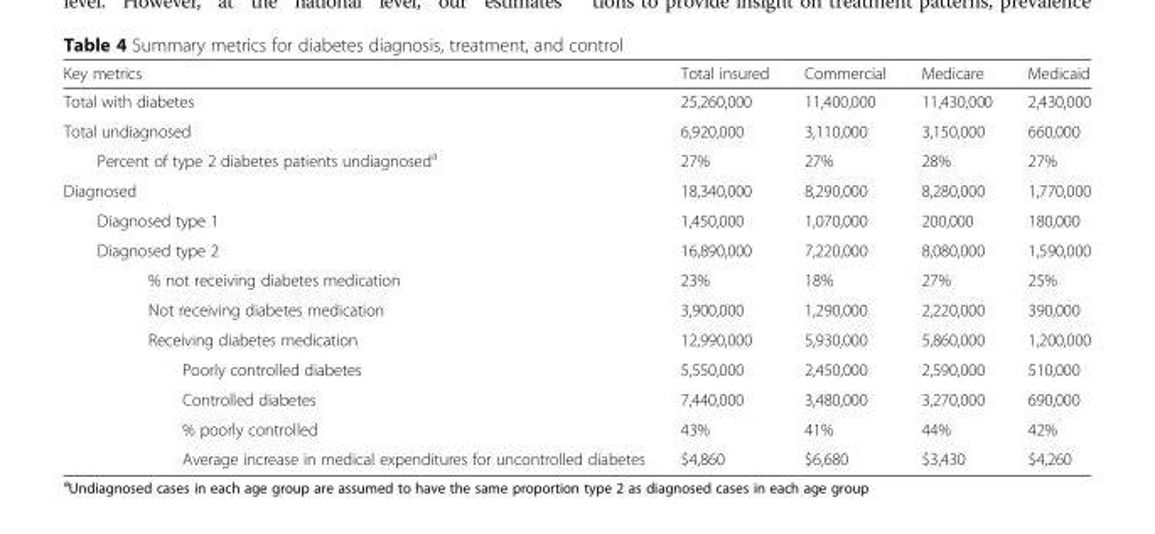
<table><thead><tr><td>Key metrics</td><td>Total insured</td><td>Commercial</td><td>Medicare</td><td>Medicaid</td></tr></thead><tbody><tr><td>Total with diabetes</td><td>25,260,000</td><td>11,400,000</td><td>11,430,000</td><td>2,430,000</td></tr><tr><td>Total undiagnosed</td><td>6,920,000</td><td>3,110,000</td><td>3,150,000</td><td>660,000</td></tr><tr><td>Percent of type 2 diabetes patients undiagnosed<sup>a</sup></td><td>27%</td><td>27%</td><td>28%</td><td>27%</td></tr><tr><td>Diagnosed</td><td>18,340,000</td><td>8,290,000</td><td>8,280,000</td><td>1,770,000</td></tr><tr><td>Diagnosed type 1</td><td>1,450,000</td><td>1,070,000</td><td>200,000</td><td>180,000</td></tr><tr><td>Diagnosed type 2</td><td>16,890,000</td><td>7,220,000</td><td>8,080,000</td><td>1,590,000</td></tr><tr><td>% not receiving diabetes medication</td><td>23%</td><td>18%</td><td>27%</td><td>25%</td></tr><tr><td>Not receiving diabetes medication</td><td>3,900,000</td><td>1,290,000</td><td>2,220,000</td><td>390,000</td></tr><tr><td>Receiving diabetes medication</td><td>12,990,000</td><td>5,930,000</td><td>5,860,000</td><td>1,200,000</td></tr><tr><td>Poorly controlled diabetes</td><td>5,550,000</td><td>2,450,000</td><td>2,590,000</td><td>510,000</td></tr><tr><td>Controlled diabetes</td><td>7,440,000</td><td>3,480,000</td><td>3,270,000</td><td>690,000</td></tr><tr><td>% poorly controlled</td><td>43%</td><td>41%</td><td>44%</td><td>42%</td></tr><tr><td>Average increase in medical expenditures for uncontrolled diabetes</td><td>$4,860</td><td>$6,680</td><td>$3,430</td><td>$4,260</td></tr></tbody></table>